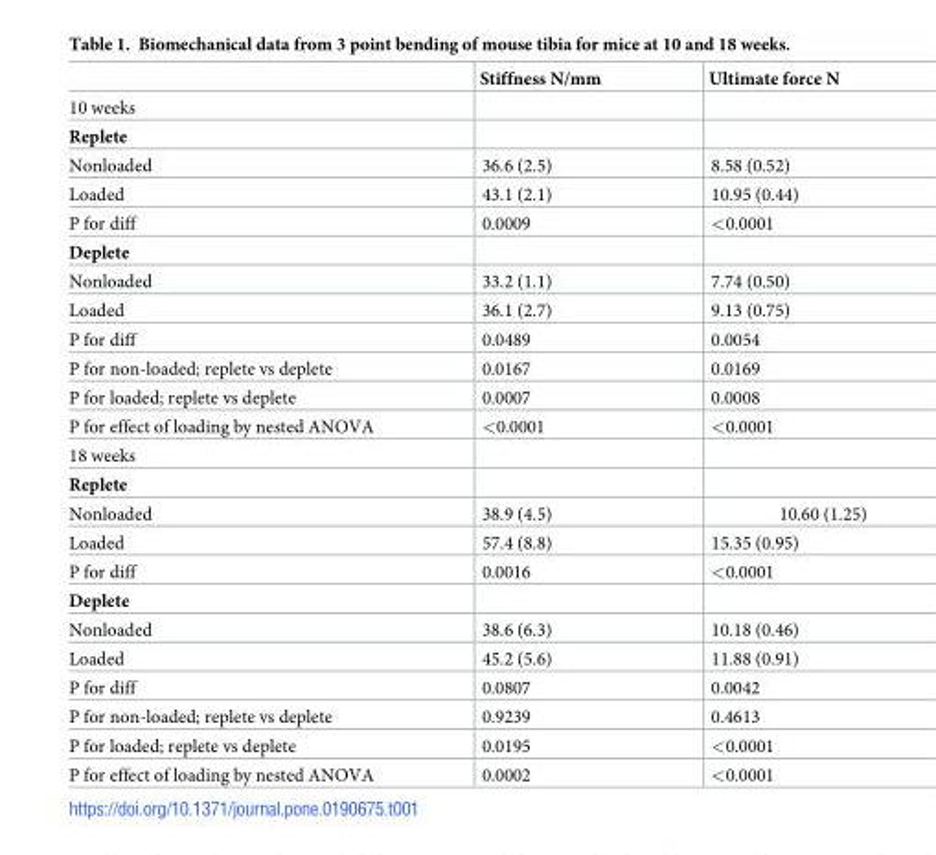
<table><thead><tr><td></td><td>Stiffness N/mm</td><td>Ultimate force N</td></tr></thead><tbody><tr><td colspan="3">10 weeks</td></tr><tr><td colspan="3">Replete</td></tr><tr><td>Nonloaded</td><td>36.6 (2.5)</td><td>8.58 (0.52)</td></tr><tr><td>Loaded</td><td>43.1 (2.1)</td><td>10.95 (0.44)</td></tr><tr><td>P for diff</td><td>0.0009</td><td>&lt;0.0001</td></tr><tr><td colspan="3">Deplete</td></tr><tr><td>Nonloaded</td><td>33.2 (1.1)</td><td>7.74 (0.50)</td></tr><tr><td>Loaded</td><td>36.1 (2.7)</td><td>9.13 (0.75)</td></tr><tr><td>P for diff</td><td>0.0489</td><td>0.0054</td></tr><tr><td>P for non-loaded; replete vs deplete</td><td>0.0167</td><td>0.0169</td></tr><tr><td>P for loaded; replete vs deplete</td><td>0.0007</td><td>0.0008</td></tr><tr><td>P for effect of loading by nested ANOVA</td><td>&lt;0.0001</td><td>&lt;0.0001</td></tr><tr><td colspan="3">18 weeks</td></tr><tr><td colspan="3">Replete</td></tr><tr><td>Nonloaded</td><td>38.9 (4.5)</td><td>10.60 (1.25)</td></tr><tr><td>Loaded</td><td>57.4 (8.8)</td><td>15.35 (0.95)</td></tr><tr><td>P for diff</td><td>0.0016</td><td>&lt;0.0001</td></tr><tr><td colspan="3">Deplete</td></tr><tr><td>Nonloaded</td><td>38.6 (6.3)</td><td>10.18 (0.46)</td></tr><tr><td>Loaded</td><td>45.2 (5.6)</td><td>11.88 (0.91)</td></tr><tr><td>P for diff</td><td>0.0807</td><td>0.0042</td></tr><tr><td>P for non-loaded; replete vs deplete</td><td>0.9239</td><td>0.4613</td></tr><tr><td>P for loaded; replete vs deplete</td><td>0.0195</td><td>&lt;0.0001</td></tr><tr><td>P for effect of loading by nested ANOVA</td><td>0.0002</td><td>&lt;0.0001</td></tr></tbody></table>